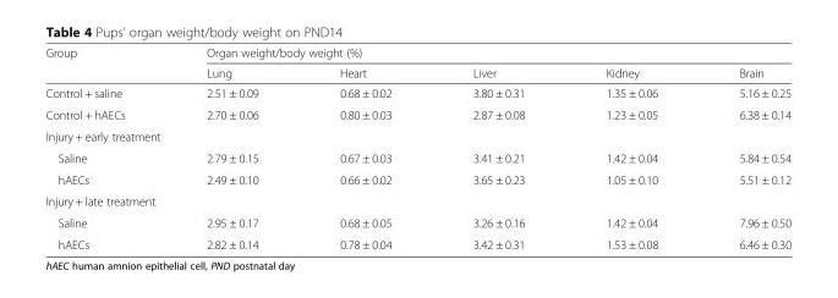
<table><thead><tr><td rowspan="2">Group</td><td colspan="5">Organ weight/body weight (%)</td></tr><tr><td>Lung</td><td>Heart</td><td>Liver</td><td>Kidney</td><td>Brain</td></tr></thead><tbody><tr><td>Control + saline</td><td>2.51 ± 0.09</td><td>0.68 ± 0.02</td><td>3.80 ± 0.31</td><td>1.35 ± 0.06</td><td>5.16 ± 0.25</td></tr><tr><td>Control + hAECs</td><td>2.70 ± 0.06</td><td>0.80 ± 0.03</td><td>2.87 ± 0.08</td><td>1.23 ± 0.05</td><td>6.38 ± 0.14</td></tr><tr><td colspan="6">Injury + early treatment</td></tr><tr><td>Saline</td><td>2.79 ± 0.15</td><td>0.67 ± 0.03</td><td>3.41 ± 0.21</td><td>1.42 ± 0.04</td><td>5.84 ± 0.54</td></tr><tr><td>hAECs</td><td>2.49 ± 0.10</td><td>0.66 ± 0.02</td><td>3.65 ± 0.23</td><td>1.05 ± 0.10</td><td>5.51 ± 0.12</td></tr><tr><td colspan="6">Injury + late treatment</td></tr><tr><td>Saline</td><td>2.95 ± 0.17</td><td>0.68 ± 0.05</td><td>3.26 ± 0.16</td><td>1.42 ± 0.04</td><td>7.96 ± 0.50</td></tr><tr><td>hAECs</td><td>2.82 ± 0.14</td><td>0.78 ± 0.04</td><td>3.42 ± 0.31</td><td>1.53 ± 0.08</td><td>6.46 ± 0.30</td></tr></tbody></table>